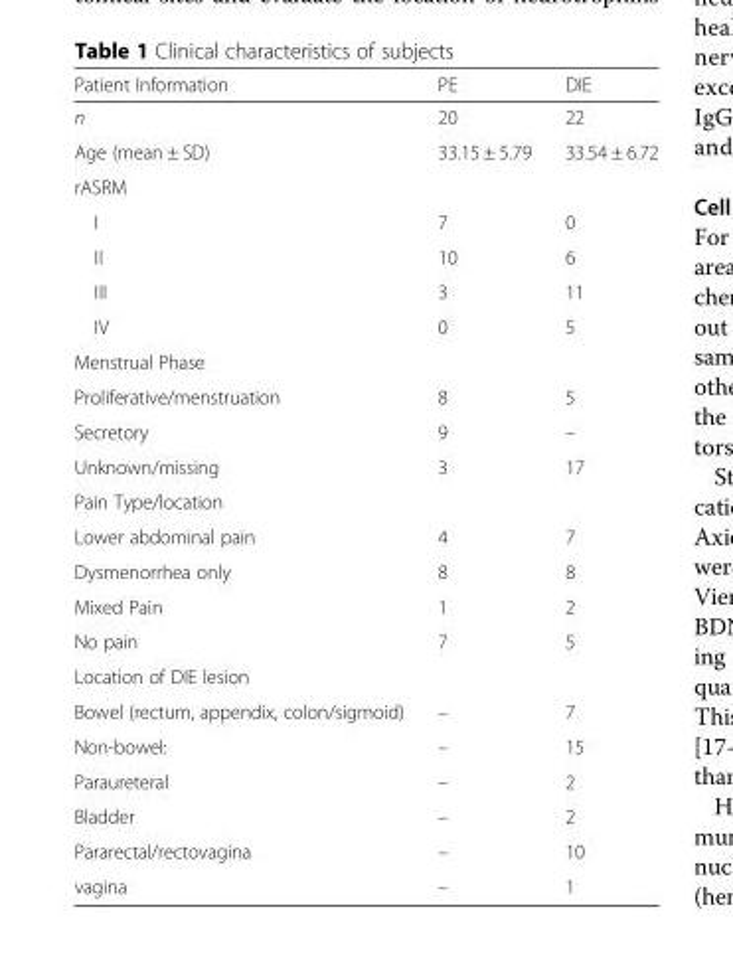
<table><thead><tr><td>Patient Information</td><td>PE</td><td>DIE</td></tr></thead><tbody><tr><td>n</td><td>20</td><td>22</td></tr><tr><td>Age (mean ± SD)</td><td>33.15 ± 5.79</td><td>33.54 ± 6.72</td></tr><tr><td colspan="3">rASRM</td></tr><tr><td>I</td><td>7</td><td>0</td></tr><tr><td>II</td><td>10</td><td>6</td></tr><tr><td>III</td><td>3</td><td>11</td></tr><tr><td>IV</td><td>0</td><td>5</td></tr><tr><td colspan="3">Menstrual Phase</td></tr><tr><td>Proliferative/menstruation</td><td>8</td><td>5</td></tr><tr><td>Secretory</td><td>9</td><td>–</td></tr><tr><td>Unknown/missing</td><td>3</td><td>17</td></tr><tr><td colspan="3">Pain Type/location</td></tr><tr><td>Lower abdominal pain</td><td>4</td><td>7</td></tr><tr><td>Dysmenorrhea only</td><td>8</td><td>8</td></tr><tr><td>Mixed Pain</td><td>1</td><td>2</td></tr><tr><td>No pain</td><td>7</td><td>5</td></tr><tr><td colspan="3">Location of DIE lesion</td></tr><tr><td>Bowel (rectum, appendix, colon/sigmoid)</td><td>–</td><td>7</td></tr><tr><td>Non-bowel:</td><td>–</td><td>15</td></tr><tr><td>Paraureteral</td><td>–</td><td>2</td></tr><tr><td>Bladder</td><td>–</td><td>2</td></tr><tr><td>Pararectal/rectovagina</td><td>–</td><td>10</td></tr><tr><td>vagina</td><td>–</td><td>1</td></tr></tbody></table>